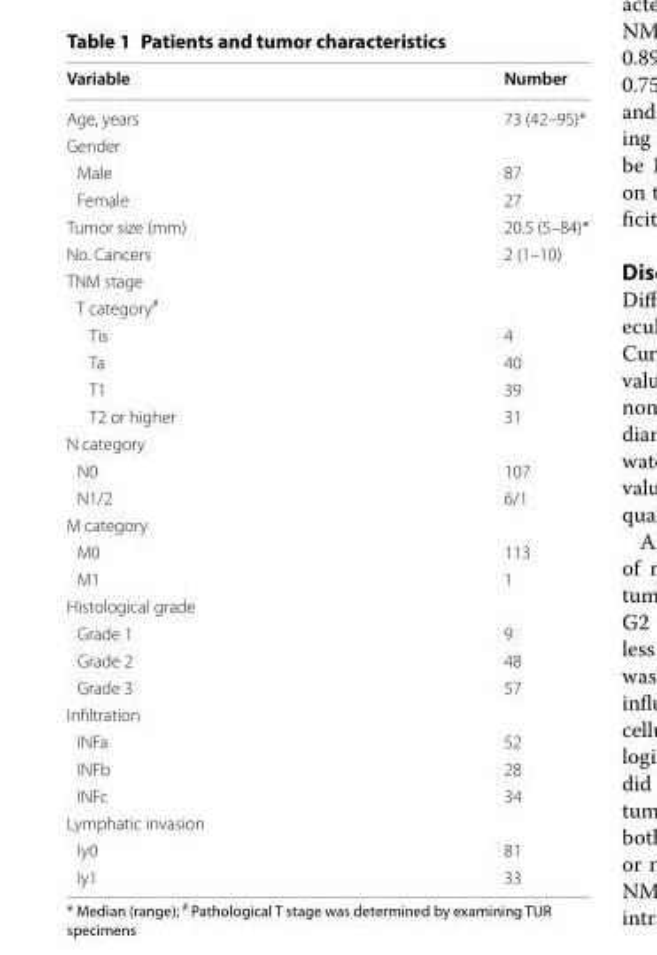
<table><thead><tr><td>Variable</td><td>Number</td></tr></thead><tbody><tr><td>Age, years</td><td>73 (42–95)*</td></tr><tr><td colspan="2">Gender</td></tr><tr><td>Male</td><td>87</td></tr><tr><td>Female</td><td>27</td></tr><tr><td>Tumor size (mm)</td><td>20.5 (5–84)*</td></tr><tr><td>No. Cancers</td><td>2 (1–10)</td></tr><tr><td colspan="2">TNM stage</td></tr><tr><td colspan="2">T category<sup>#</sup></td></tr><tr><td>Tis</td><td>4</td></tr><tr><td>Ta</td><td>40</td></tr><tr><td>T1</td><td>39</td></tr><tr><td>T2 or higher</td><td>31</td></tr><tr><td colspan="2">N category</td></tr><tr><td>N0</td><td>107</td></tr><tr><td>N1/2</td><td>6/1</td></tr><tr><td colspan="2">M category</td></tr><tr><td>M0</td><td>113</td></tr><tr><td>M1</td><td>1</td></tr><tr><td colspan="2">Histological grade</td></tr><tr><td>Grade 1</td><td>9</td></tr><tr><td>Grade 2</td><td>48</td></tr><tr><td>Grade 3</td><td>57</td></tr><tr><td colspan="2">Infiltration</td></tr><tr><td>INFa</td><td>52</td></tr><tr><td>INFb</td><td>28</td></tr><tr><td>INFc</td><td>34</td></tr><tr><td colspan="2">Lymphatic invasion</td></tr><tr><td>ly0</td><td>81</td></tr><tr><td>ly1</td><td>33</td></tr></tbody></table>